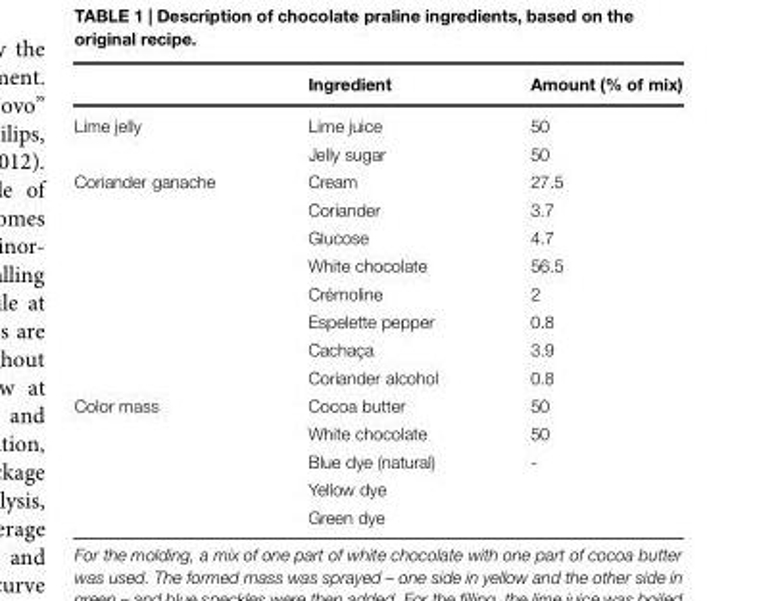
<table><thead><tr><td></td><td>Ingredient</td><td>Amount (% of mix)</td></tr></thead><tbody><tr><td rowspan="2">Lime jelly</td><td>Lime juice</td><td>50</td></tr><tr><td>Jelly sugar</td><td>50</td></tr><tr><td rowspan="8">Coriander ganache</td><td>Cream</td><td>27.5</td></tr><tr><td>Coriander</td><td>3.7</td></tr><tr><td>Glucose</td><td>4.7</td></tr><tr><td>White chocolate</td><td>56.5</td></tr><tr><td>Crémoline</td><td>2</td></tr><tr><td>Espelette pepper</td><td>0.8</td></tr><tr><td>Cachaça</td><td>3.9</td></tr><tr><td>Coriander alcohol</td><td>0.8</td></tr><tr><td rowspan="5">Color mass</td><td>Cocoa butter</td><td>50</td></tr><tr><td>White chocolate</td><td>50</td></tr><tr><td>Blue dye (natural)</td><td>-</td></tr><tr><td>Yellow dye</td><td></td></tr><tr><td>Green dye</td><td></td></tr></tbody></table>